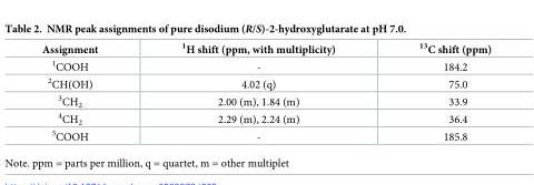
<table><thead><tr><td>Assignment</td><td><sup>1</sup>H shift (ppm, with multiplicity)</td><td><sup>13</sup>C shift (ppm)</td></tr></thead><tbody><tr><td><sup>1</sup>COOH</td><td>-</td><td>184.2</td></tr><tr><td><sup>2</sup>CH(OH)</td><td>4.02 (q)</td><td>75.0</td></tr><tr><td><sup>3</sup>CH<sub>2</sub></td><td>2.00 (m), 1.84 (m)</td><td>33.9</td></tr><tr><td><sup>4</sup>CH<sub>2</sub></td><td>2.29 (m), 2.24 (m)</td><td>36.4</td></tr><tr><td><sup>5</sup>COOH</td><td>-</td><td>185.8</td></tr></tbody></table>